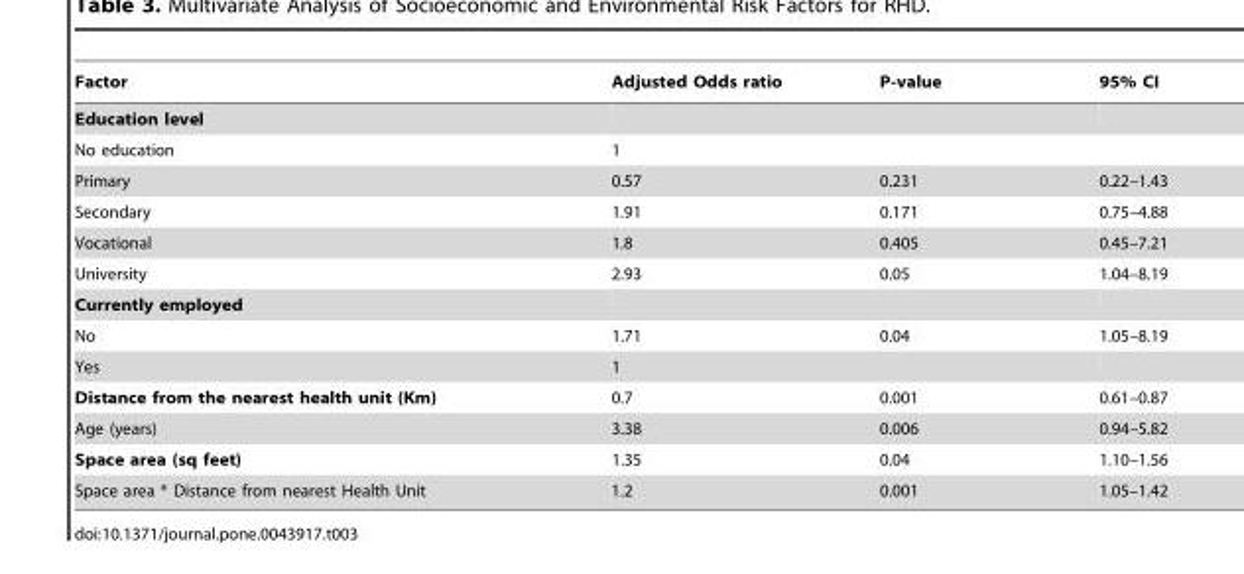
<table><thead><tr><td>Factor</td><td>Adjusted Odds ratio</td><td>P-value</td><td>95% CI</td></tr></thead><tbody><tr><td colspan="4">Education level</td></tr><tr><td>No education</td><td>1</td><td></td><td></td></tr><tr><td>Primary</td><td>0.57</td><td>0.231</td><td>0.22–1.43</td></tr><tr><td>Secondary</td><td>1.91</td><td>0.171</td><td>0.75–4.88</td></tr><tr><td>Vocational</td><td>1.8</td><td>0.405</td><td>0.45–7.21</td></tr><tr><td>University</td><td>2.93</td><td>0.05</td><td>1.04–8.19</td></tr><tr><td colspan="4">Currently employed</td></tr><tr><td>No</td><td>1.71</td><td>0.04</td><td>1.05–8.19</td></tr><tr><td>Yes</td><td>1</td><td></td><td></td></tr><tr><td>Distance from the nearest health unit (Km)</td><td>0.7</td><td>0.001</td><td>0.61–0.87</td></tr><tr><td>Age (years)</td><td>3.38</td><td>0.006</td><td>0.94–5.82</td></tr><tr><td>Space area (sq feet)</td><td>1.35</td><td>0.04</td><td>1.10–1.56</td></tr><tr><td>Space area * Distance from nearest Health Unit</td><td>1.2</td><td>0.001</td><td>1.05–1.42</td></tr></tbody></table>